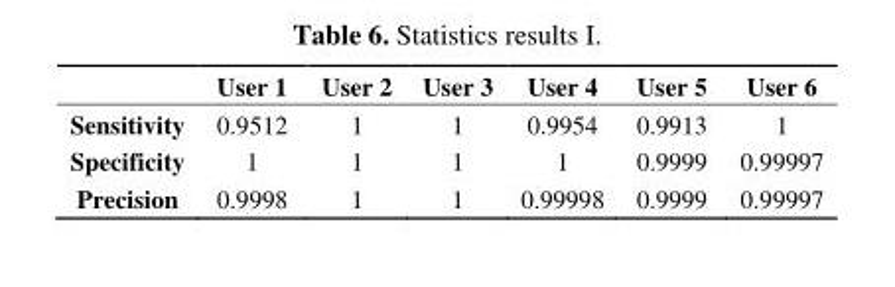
<table><thead><tr><td></td><td>User 1</td><td>User 2</td><td>User 3</td><td>User 4</td><td>User 5</td><td>User 6</td></tr></thead><tbody><tr><td>Sensitivity</td><td>0.9512</td><td>1</td><td>1</td><td>0.9954</td><td>0.9913</td><td>1</td></tr><tr><td>Specificity</td><td>1</td><td>1</td><td>1</td><td>1</td><td>0.9999</td><td>0.99997</td></tr><tr><td>Precision</td><td>0.9998</td><td>1</td><td>1</td><td>0.99998</td><td>0.9999</td><td>0.99997</td></tr></tbody></table>